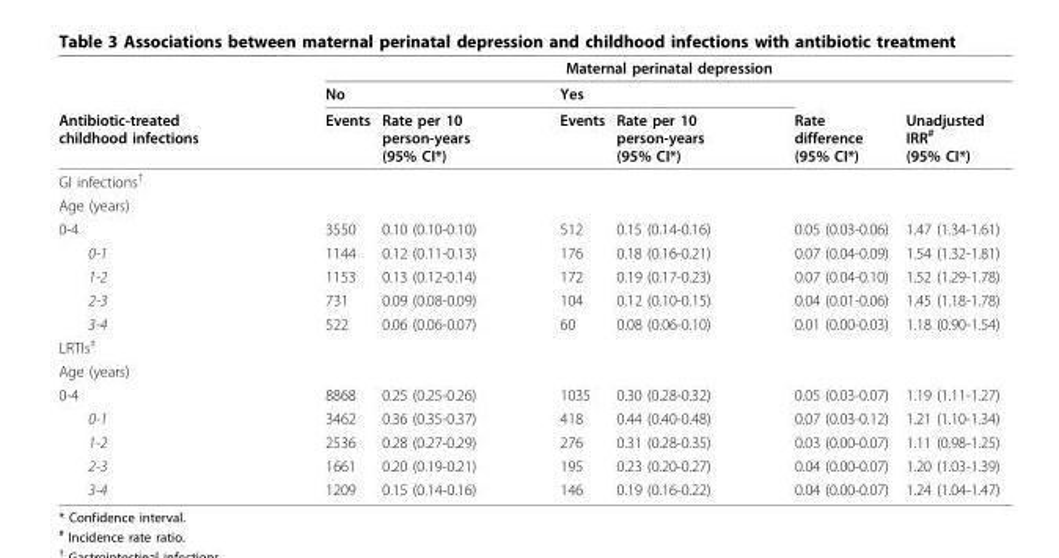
<table><thead><tr><td rowspan="3">Antibiotic-treated childhood infections</td><td colspan="6">Maternal perinatal depression</td></tr><tr><td rowspan="2">No Events</td><td rowspan="2">Rate per 10 person-years (95% CI*)</td><td rowspan="2">Yes Events</td><td rowspan="2">Rate per 10 person-years (95% CI*)</td><td rowspan="2">Rate difference (95% CI*)</td><td rowspan="2">Unadjusted IRR<sup>#</sup> (95% CI*)</td></tr><tr></tr></thead><tbody><tr><td colspan="7">GI infections<sup>†</sup></td></tr><tr><td colspan="7">Age (years)</td></tr><tr><td>0-4</td><td>3550</td><td>0.10 (0.10-0.10)</td><td>512</td><td>0.15 (0.14-0.16)</td><td>0.05 (0.03-0.06)</td><td>1.47 (1.34-1.61)</td></tr><tr><td>0-1</td><td>1144</td><td>0.12 (0.11-0.13)</td><td>176</td><td>0.18 (0.16-0.21)</td><td>0.07 (0.04-0.09)</td><td>1.54 (1.32-1.81)</td></tr><tr><td>1-2</td><td>1153</td><td>0.13 (0.12-0.14)</td><td>172</td><td>0.19 (0.17-0.23)</td><td>0.07 (0.04-0.10)</td><td>1.52 (1.29-1.78)</td></tr><tr><td>2-3</td><td>731</td><td>0.09 (0.08-0.09)</td><td>104</td><td>0.12 (0.10-0.15)</td><td>0.04 (0.01-0.06)</td><td>1.45 (1.18-1.78)</td></tr><tr><td>3-4</td><td>522</td><td>0.06 (0.06-0.07)</td><td>60</td><td>0.08 (0.06-0.10)</td><td>0.01 (0.00-0.03)</td><td>1.18 (0.90-1.54)</td></tr><tr><td colspan="7">LRTIs<sup>‡</sup></td></tr><tr><td colspan="7">Age (years)</td></tr><tr><td>0-4</td><td>8868</td><td>0.25 (0.25-0.26)</td><td>1035</td><td>0.30 (0.28-0.32)</td><td>0.05 (0.03-0.07)</td><td>1.19 (1.11-1.27)</td></tr><tr><td>0-1</td><td>3462</td><td>0.36 (0.35-0.37)</td><td>418</td><td>0.44 (0.40-0.48)</td><td>0.07 (0.03-0.12)</td><td>1.21 (1.10-1.34)</td></tr><tr><td>1-2</td><td>2536</td><td>0.28 (0.27-0.29)</td><td>276</td><td>0.31 (0.28-0.35)</td><td>0.03 (0.00-0.07)</td><td>1.11 (0.98-1.25)</td></tr><tr><td>2-3</td><td>1661</td><td>0.20 (0.19-0.21)</td><td>195</td><td>0.23 (0.20-0.27)</td><td>0.04 (0.00-0.07)</td><td>1.20 (1.03-1.39)</td></tr><tr><td>3-4</td><td>1209</td><td>0.15 (0.14-0.16)</td><td>146</td><td>0.19 (0.16-0.22)</td><td>0.04 (0.00-0.07)</td><td>1.24 (1.04-1.47)</td></tr></tbody></table>